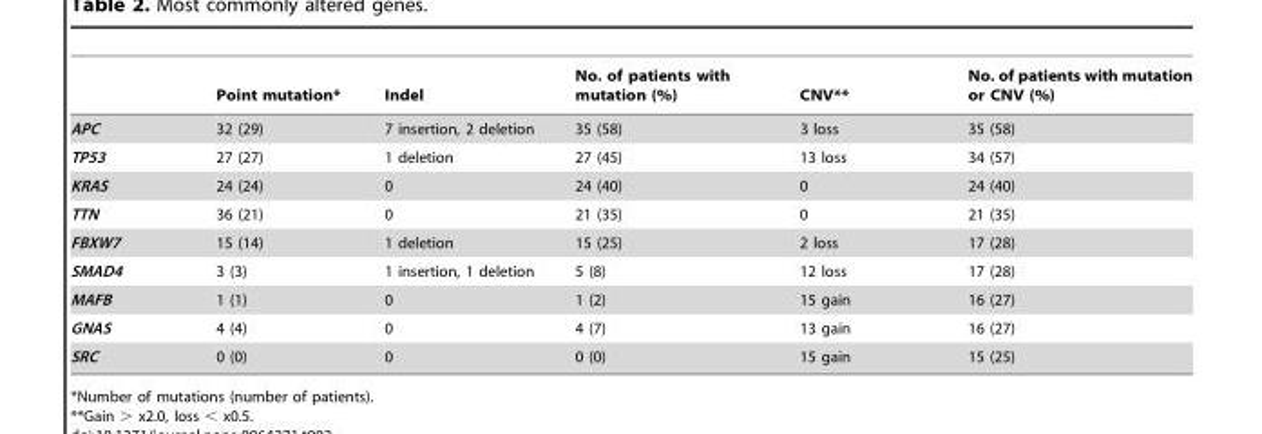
<table><thead><tr><td></td><td>Point mutation*</td><td>Indel</td><td>No. of patients with mutation (%)</td><td>CNV**</td><td>No. of patients with mutation or CNV (%)</td></tr></thead><tbody><tr><td>APC</td><td>32 (29)</td><td>7 insertion, 2 deletion</td><td>35 (58)</td><td>3 loss</td><td>35 (58)</td></tr><tr><td>TP53</td><td>27 (27)</td><td>1 deletion</td><td>27 (45)</td><td>13 loss</td><td>34 (57)</td></tr><tr><td>KRAS</td><td>24 (24)</td><td>0</td><td>24 (40)</td><td>0</td><td>24 (40)</td></tr><tr><td>TTN</td><td>36 (21)</td><td>0</td><td>21 (35)</td><td>0</td><td>21 (35)</td></tr><tr><td>FBXW7</td><td>15 (14)</td><td>1 deletion</td><td>15 (25)</td><td>2 loss</td><td>17 (28)</td></tr><tr><td>SMAD4</td><td>3 (3)</td><td>1 insertion, 1 deletion</td><td>5 (8)</td><td>12 loss</td><td>17 (28)</td></tr><tr><td>MAFB</td><td>1 (1)</td><td>0</td><td>1 (2)</td><td>15 gain</td><td>16 (27)</td></tr><tr><td>GNAS</td><td>4 (4)</td><td>0</td><td>4 (7)</td><td>13 gain</td><td>16 (27)</td></tr><tr><td>SRC</td><td>0 (0)</td><td>0</td><td>0 (0)</td><td>15 gain</td><td>15 (25)</td></tr></tbody></table>